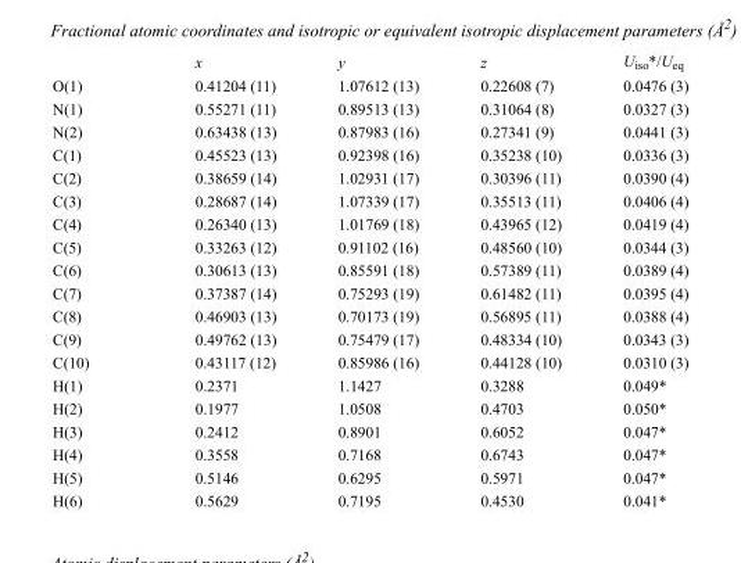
<table><thead><tr><td></td><td>x</td><td>y</td><td>z</td><td>U<sub>iso</sub>*/U<sub>eq</sub></td></tr></thead><tbody><tr><td>O(1)</td><td>0.41204 (11)</td><td>1.07612 (13)</td><td>0.22608 (7)</td><td>0.0476 (3)</td></tr><tr><td>N(1)</td><td>0.55271 (11)</td><td>0.89513 (13)</td><td>0.31064 (8)</td><td>0.0327 (3)</td></tr><tr><td>N(2)</td><td>0.63438 (13)</td><td>0.87983 (16)</td><td>0.27341 (9)</td><td>0.0441 (3)</td></tr><tr><td>C(1)</td><td>0.45523 (13)</td><td>0.92398 (16)</td><td>0.35238 (10)</td><td>0.0336 (3)</td></tr><tr><td>C(2)</td><td>0.38659 (14)</td><td>1.02931 (17)</td><td>0.30396 (11)</td><td>0.0390 (4)</td></tr><tr><td>C(3)</td><td>0.28687 (14)</td><td>1.07339 (17)</td><td>0.35513 (11)</td><td>0.0406 (4)</td></tr><tr><td>C(4)</td><td>0.26340 (13)</td><td>1.01769 (18)</td><td>0.43965 (12)</td><td>0.0419 (4)</td></tr><tr><td>C(5)</td><td>0.33263 (12)</td><td>0.91102 (16)</td><td>0.48560 (10)</td><td>0.0344 (3)</td></tr><tr><td>C(6)</td><td>0.30613 (13)</td><td>0.85591 (18)</td><td>0.57389 (11)</td><td>0.0389 (4)</td></tr><tr><td>C(7)</td><td>0.37387 (14)</td><td>0.75293 (19)</td><td>0.61482 (11)</td><td>0.0395 (4)</td></tr><tr><td>C(8)</td><td>0.46903 (13)</td><td>0.70173 (19)</td><td>0.56895 (11)</td><td>0.0388 (4)</td></tr><tr><td>C(9)</td><td>0.49762 (13)</td><td>0.75479 (17)</td><td>0.48334 (10)</td><td>0.0343 (3)</td></tr><tr><td>C(10)</td><td>0.43117 (12)</td><td>0.85986 (16)</td><td>0.44128 (10)</td><td>0.0310 (3)</td></tr><tr><td>H(1)</td><td>0.2371</td><td>1.1427</td><td>0.3288</td><td>0.049*</td></tr><tr><td>H(2)</td><td>0.1977</td><td>1.0508</td><td>0.4703</td><td>0.050*</td></tr><tr><td>H(3)</td><td>0.2412</td><td>0.8901</td><td>0.6052</td><td>0.047*</td></tr><tr><td>H(4)</td><td>0.3558</td><td>0.7168</td><td>0.6743</td><td>0.047*</td></tr><tr><td>H(5)</td><td>0.5146</td><td>0.6295</td><td>0.5971</td><td>0.047*</td></tr><tr><td>H(6)</td><td>0.5629</td><td>0.7195</td><td>0.4530</td><td>0.041*</td></tr></tbody></table>